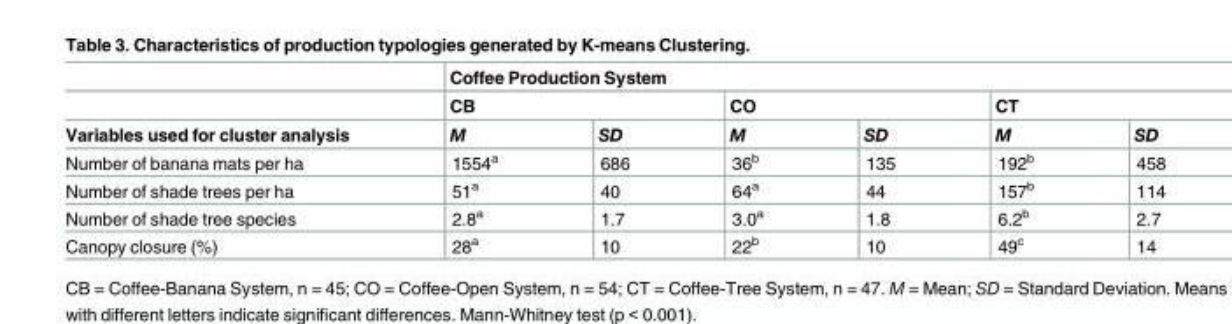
<table><thead><tr><td rowspan="3">Variables used for cluster analysis</td><td colspan="6">Coffee Production System</td></tr><tr><td colspan="2">CB</td><td colspan="2">CO</td><td colspan="2">CT</td></tr><tr><td>M</td><td>SD</td><td>M</td><td>SD</td><td>M</td><td>SD</td></tr></thead><tbody><tr><td>Number of banana mats per ha</td><td>1554<sup>a</sup></td><td>686</td><td>36<sup>b</sup></td><td>135</td><td>192<sup>b</sup></td><td>458</td></tr><tr><td>Number of shade trees per ha</td><td>51<sup>a</sup></td><td>40</td><td>64<sup>a</sup></td><td>44</td><td>157<sup>b</sup></td><td>114</td></tr><tr><td>Number of shade tree species</td><td>2.8<sup>a</sup></td><td>1.7</td><td>3.0<sup>a</sup></td><td>1.8</td><td>6.2<sup>b</sup></td><td>2.7</td></tr><tr><td>Canopy closure (%)</td><td>28<sup>a</sup></td><td>10</td><td>22<sup>b</sup></td><td>10</td><td>49<sup>c</sup></td><td>14</td></tr></tbody></table>